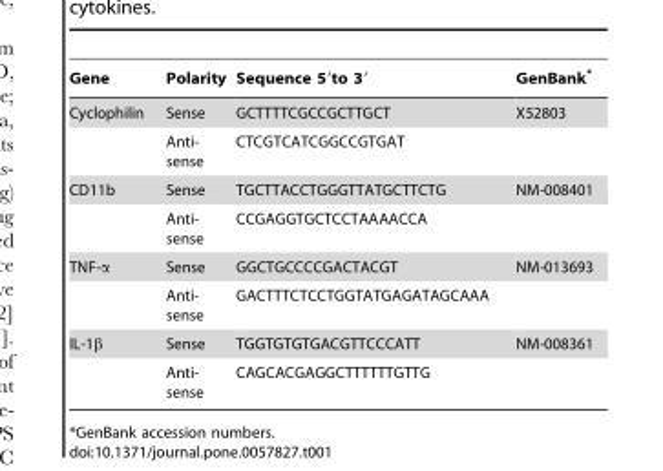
<table><thead><tr><td>Gene</td><td>Polarity</td><td>Sequence 5′to 3′</td><td>GenBank*</td></tr></thead><tbody><tr><td rowspan="2">Cyclophilin</td><td>Sense</td><td>GCTTTTCGCCGCTTGCT</td><td>X52803</td></tr><tr><td>Anti- sense</td><td>CTCGTCATCGGCCGTGAT</td><td></td></tr><tr><td rowspan="2">CD11b</td><td>Sense</td><td>TGCTTACCTGGGTTATGCTTCTG</td><td>NM-008401</td></tr><tr><td>Anti- sense</td><td>CCGAGGTGCTCCTAAAACCA</td><td></td></tr><tr><td rowspan="2">TNF-α</td><td>Sense</td><td>GGCTGCCCCGACTACGT</td><td>NM-013693</td></tr><tr><td>Anti- sense</td><td>GACTTTCTCCTGGTATGAGATAGCAAA</td><td></td></tr><tr><td rowspan="2">IL-1β</td><td>Sense</td><td>TGGTGTGTGACGTTCCCATT</td><td>NM-008361</td></tr><tr><td>Anti- sense</td><td>CAGCACGAGGCTTTTTTGTTG</td><td></td></tr></tbody></table>